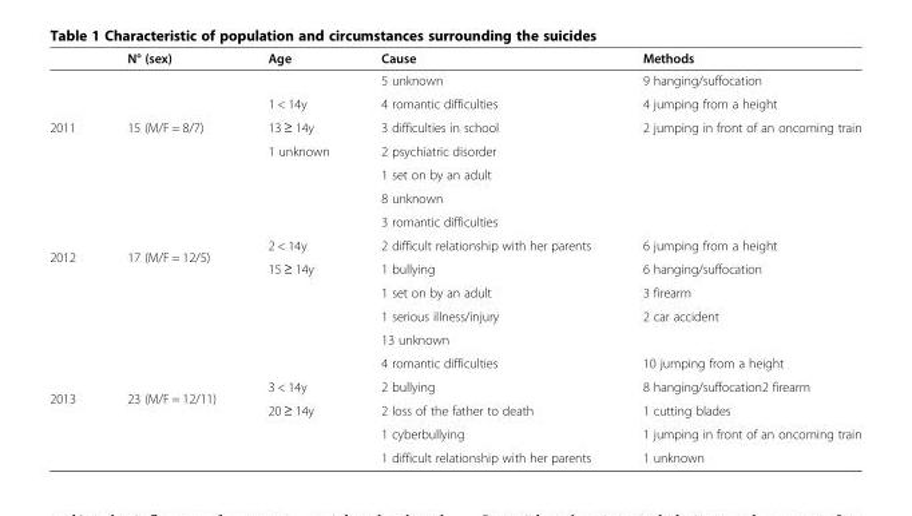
<table><thead><tr><td></td><td>N° (sex)</td><td>Age</td><td>Cause</td><td>Methods</td></tr></thead><tbody><tr><td rowspan="5">2011</td><td rowspan="5">15 (M/F = 8/7)</td><td></td><td>5 unknown</td><td>9 hanging/suffocation</td></tr><tr><td>1 &lt; 14y</td><td>4 romantic difficulties</td><td>4 jumping from a height</td></tr><tr><td>13 ≥ 14y</td><td>3 difficulties in school</td><td>2 jumping in front of an oncoming train</td></tr><tr><td>1 unknown</td><td>2 psychiatric disorder</td><td></td></tr><tr><td></td><td>1 set on by an adult</td><td></td></tr><tr><td rowspan="6">2012</td><td rowspan="6">17 (M/F = 12/5)</td><td></td><td>8 unknown</td><td></td></tr><tr><td></td><td>3 romantic difficulties</td><td></td></tr><tr><td>2 &lt; 14y</td><td>2 difficult relationship with her parents</td><td>6 jumping from a height</td></tr><tr><td>15 ≥ 14y</td><td>1 bullying</td><td>6 hanging/suffocation</td></tr><tr><td></td><td>1 set on by an adult</td><td>3 firearm</td></tr><tr><td></td><td>1 serious illness/injury</td><td>2 car accident</td></tr><tr><td rowspan="6">2013</td><td rowspan="6">23 (M/F = 12/11)</td><td></td><td>13 unknown</td><td></td></tr><tr><td></td><td>4 romantic difficulties</td><td>10 jumping from a height</td></tr><tr><td>3 &lt; 14y</td><td>2 bullying</td><td>8 hanging/suffocation2 firearm</td></tr><tr><td>20 ≥ 14y</td><td>2 loss of the father to death</td><td>1 cutting blades</td></tr><tr><td></td><td>1 cyberbullying</td><td>1 jumping in front of an oncoming train</td></tr><tr><td></td><td>1 difficult relationship with her parents</td><td>1 unknown</td></tr></tbody></table>